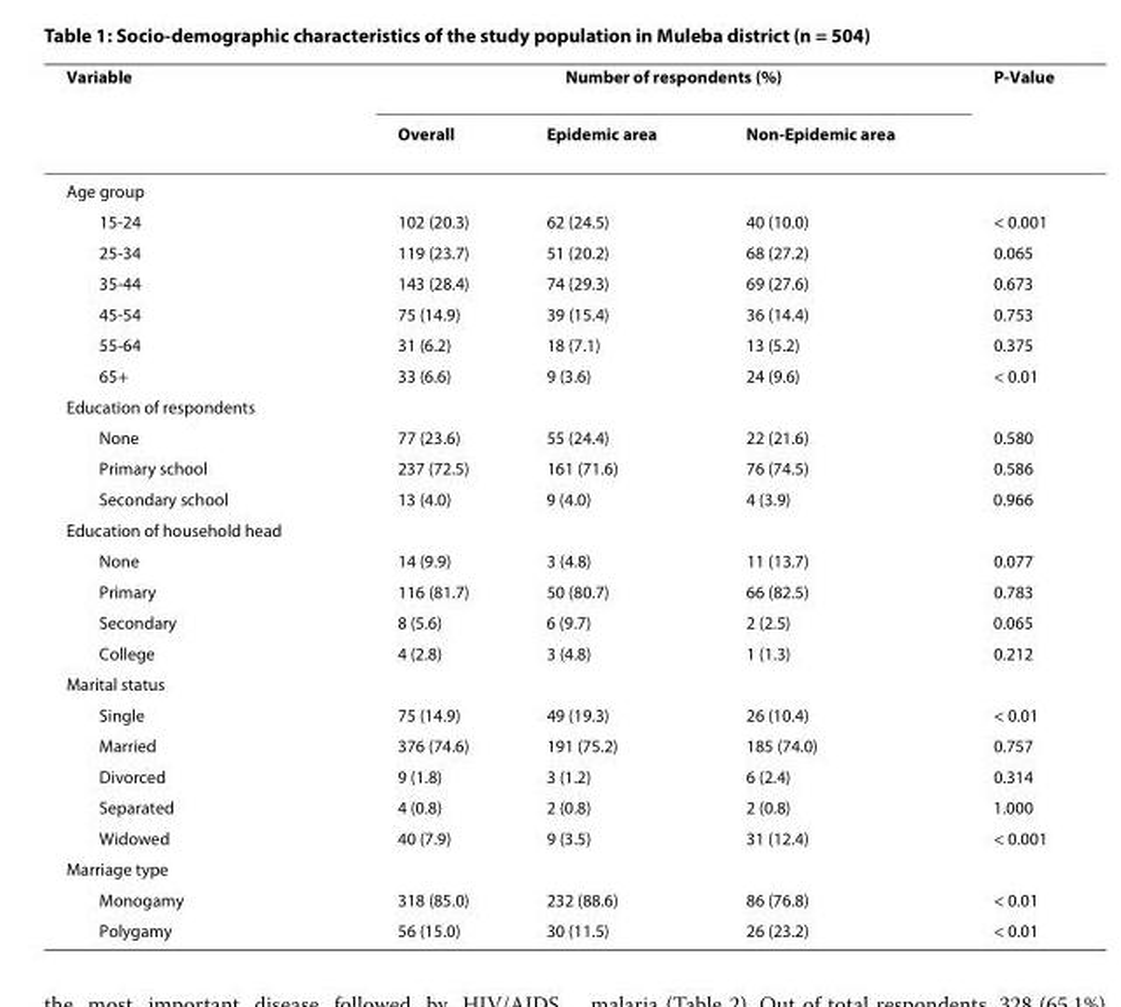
<table><thead><tr><td rowspan="2">Variable</td><td colspan="3">Number of respondents (%)</td><td rowspan="2">P-Value</td></tr><tr><td>Overall</td><td>Epidemic area</td><td>Non-Epidemic area</td></tr></thead><tbody><tr><td colspan="5">Age group</td></tr><tr><td>15-24</td><td>102 (20.3)</td><td>62 (24.5)</td><td>40 (10.0)</td><td>&lt; 0.001</td></tr><tr><td>25-34</td><td>119 (23.7)</td><td>51 (20.2)</td><td>68 (27.2)</td><td>0.065</td></tr><tr><td>35-44</td><td>143 (28.4)</td><td>74 (29.3)</td><td>69 (27.6)</td><td>0.673</td></tr><tr><td>45-54</td><td>75 (14.9)</td><td>39 (15.4)</td><td>36 (14.4)</td><td>0.753</td></tr><tr><td>55-64</td><td>31 (6.2)</td><td>18 (7.1)</td><td>13 (5.2)</td><td>0.375</td></tr><tr><td>65+</td><td>33 (6.6)</td><td>9 (3.6)</td><td>24 (9.6)</td><td>&lt; 0.01</td></tr><tr><td colspan="5">Education of respondents</td></tr><tr><td>None</td><td>77 (23.6)</td><td>55 (24.4)</td><td>22 (21.6)</td><td>0.580</td></tr><tr><td>Primary school</td><td>237 (72.5)</td><td>161 (71.6)</td><td>76 (74.5)</td><td>0.586</td></tr><tr><td>Secondary school</td><td>13 (4.0)</td><td>9 (4.0)</td><td>4 (3.9)</td><td>0.966</td></tr><tr><td colspan="5">Education of household head</td></tr><tr><td>None</td><td>14 (9.9)</td><td>3 (4.8)</td><td>11 (13.7)</td><td>0.077</td></tr><tr><td>Primary</td><td>116 (81.7)</td><td>50 (80.7)</td><td>66 (82.5)</td><td>0.783</td></tr><tr><td>Secondary</td><td>8 (5.6)</td><td>6 (9.7)</td><td>2 (2.5)</td><td>0.065</td></tr><tr><td>College</td><td>4 (2.8)</td><td>3 (4.8)</td><td>1 (1.3)</td><td>0.212</td></tr><tr><td colspan="5">Marital status</td></tr><tr><td>Single</td><td>75 (14.9)</td><td>49 (19.3)</td><td>26 (10.4)</td><td>&lt; 0.01</td></tr><tr><td>Married</td><td>376 (74.6)</td><td>191 (75.2)</td><td>185 (74.0)</td><td>0.757</td></tr><tr><td>Divorced</td><td>9 (1.8)</td><td>3 (1.2)</td><td>6 (2.4)</td><td>0.314</td></tr><tr><td>Separated</td><td>4 (0.8)</td><td>2 (0.8)</td><td>2 (0.8)</td><td>1.000</td></tr><tr><td>Widowed</td><td>40 (7.9)</td><td>9 (3.5)</td><td>31 (12.4)</td><td>&lt; 0.001</td></tr><tr><td colspan="5">Marriage type</td></tr><tr><td>Monogamy</td><td>318 (85.0)</td><td>232 (88.6)</td><td>86 (76.8)</td><td>&lt; 0.01</td></tr><tr><td>Polygamy</td><td>56 (15.0)</td><td>30 (11.5)</td><td>26 (23.2)</td><td>&lt; 0.01</td></tr></tbody></table>